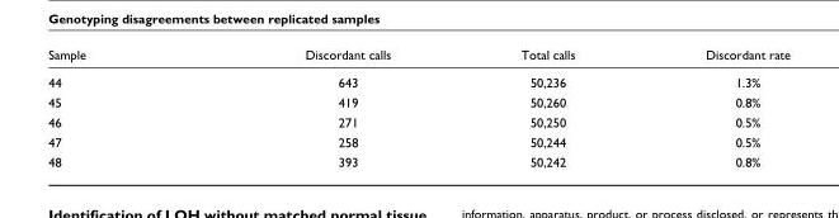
<table><thead><tr><td>Sample</td><td>Discordant calls</td><td>Total calls</td><td>Discordant rate</td></tr></thead><tbody><tr><td>44</td><td>643</td><td>50,236</td><td>1.3%</td></tr><tr><td>45</td><td>419</td><td>50,260</td><td>0.8%</td></tr><tr><td>46</td><td>271</td><td>50,250</td><td>0.5%</td></tr><tr><td>47</td><td>258</td><td>50,244</td><td>0.5%</td></tr><tr><td>48</td><td>393</td><td>50,242</td><td>0.8%</td></tr></tbody></table>